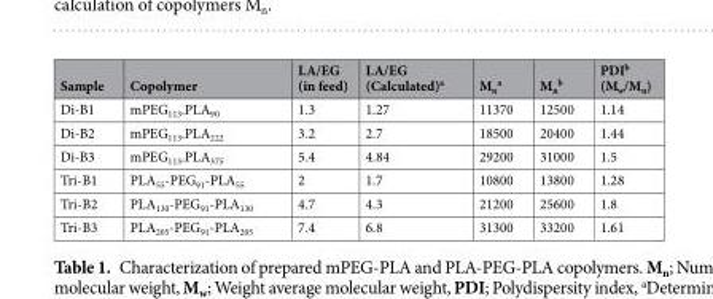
<table><thead><tr><td>Sample</td><td>Copolymer</td><td>LA/EG (in feed)</td><td>LA/EG (Calculated)<sup>a</sup></td><td>M<sub>n</sub> <sup>a</sup></td><td>M<sub>n</sub> <sup>b</sup></td><td>PDI<sup>b</sup> (M<sub>w</sub>/M<sub>n</sub>)</td></tr></thead><tbody><tr><td>Di-B1</td><td>mPEG<sub>113</sub>.PLA<sub>90</sub></td><td>1.3</td><td>1.27</td><td>11370</td><td>12500</td><td>1.14</td></tr><tr><td>Di-B2</td><td>mPEG<sub>113</sub>.PLA<sub>222</sub></td><td>3.2</td><td>2.7</td><td>18500</td><td>20400</td><td>1.44</td></tr><tr><td>Di-B3</td><td>mPEG<sub>113</sub>.PLA<sub>375</sub></td><td>5.4</td><td>4.84</td><td>29200</td><td>31000</td><td>1.5</td></tr><tr><td>Tri-B1</td><td>PLA<sub>55</sub>-PEG<sub>91</sub>-PLA<sub>55</sub></td><td>2</td><td>1.7</td><td>10800</td><td>13800</td><td>1.28</td></tr><tr><td>Tri-B2</td><td>PLA<sub>130</sub>-PEG<sub>91</sub>-PLA<sub>130</sub></td><td>4.7</td><td>4.3</td><td>21200</td><td>25600</td><td>1.8</td></tr><tr><td>Tri-B3</td><td>PLA<sub>205</sub>-PEG<sub>91</sub>-PLA<sub>205</sub></td><td>7.4</td><td>6.8</td><td>31300</td><td>33200</td><td>1.61</td></tr></tbody></table>